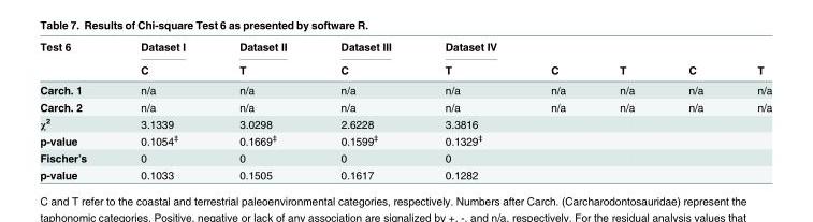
<table><thead><tr><td rowspan="2">Test 6</td><td rowspan="2">Dataset I C</td><td rowspan="2">Dataset II T</td><td rowspan="2">Dataset III C</td><td rowspan="2">Dataset IV T</td><td rowspan="2">C</td><td rowspan="2">T</td><td rowspan="2">C</td><td rowspan="2">T</td></tr><tr></tr></thead><tbody><tr><td>Carch. 1</td><td>n/a</td><td>n/a</td><td>n/a</td><td>n/a</td><td>n/a</td><td>n/a</td><td>n/a</td><td>n/a</td></tr><tr><td>Carch. 2</td><td>n/a</td><td>n/a</td><td>n/a</td><td>n/a</td><td>n/a</td><td>n/a</td><td>n/a</td><td>n/a</td></tr><tr><td>χ<sup>2</sup></td><td>3.1339</td><td>3.0298</td><td>2.6228</td><td>3.3816</td><td></td><td></td><td></td><td></td></tr><tr><td>p-value</td><td>0.1054<sup>‡</sup></td><td>0.1669<sup>‡</sup></td><td>0.1599<sup>‡</sup></td><td>0.1329<sup>‡</sup></td><td></td><td></td><td></td><td></td></tr><tr><td>Fischer’s</td><td>0</td><td>0</td><td>0</td><td>0</td><td></td><td></td><td></td><td></td></tr><tr><td>p-value</td><td>0.1033</td><td>0.1505</td><td>0.1617</td><td>0.1282</td><td></td><td></td><td></td><td></td></tr></tbody></table>